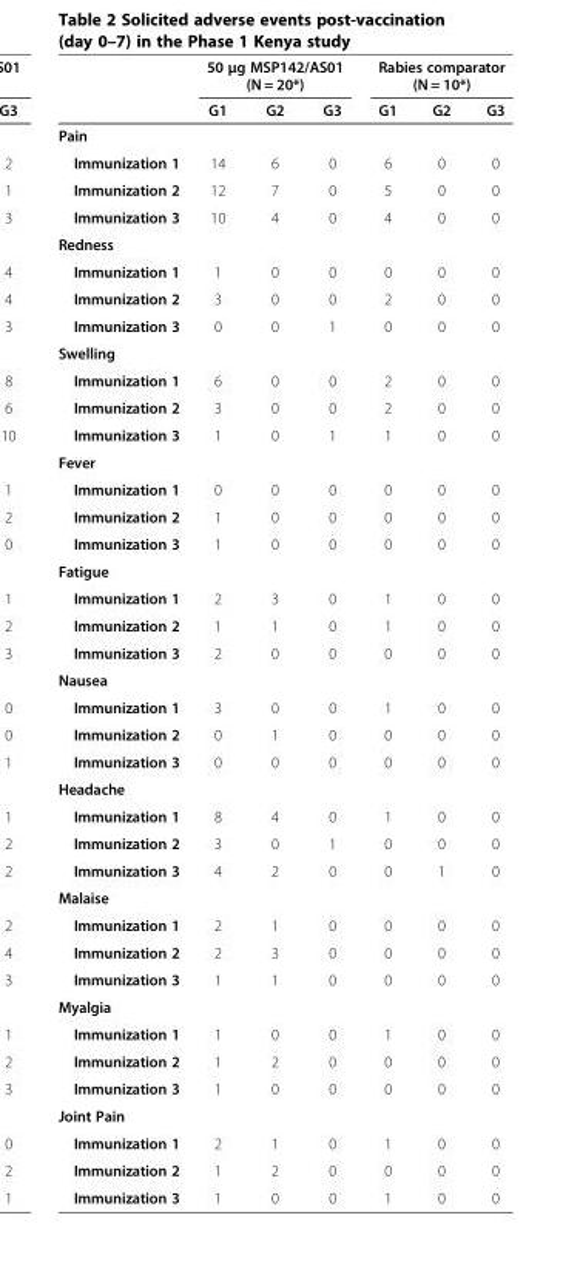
<table><thead><tr><td rowspan="2"></td><td colspan="3">50 μg MSP142/AS01 (N = 20*)</td><td colspan="3">Rabies comparator (N = 10*)</td></tr><tr><td>G1</td><td>G2</td><td>G3</td><td>G1</td><td>G2</td><td>G3</td></tr></thead><tbody><tr><td colspan="7">Pain</td></tr><tr><td>Immunization 1</td><td>14</td><td>6</td><td>0</td><td>6</td><td>0</td><td>0</td></tr><tr><td>Immunization 2</td><td>12</td><td>7</td><td>0</td><td>5</td><td>0</td><td>0</td></tr><tr><td>Immunization 3</td><td>10</td><td>4</td><td>0</td><td>4</td><td>0</td><td>0</td></tr><tr><td colspan="7">Redness</td></tr><tr><td>Immunization 1</td><td>1</td><td>0</td><td>0</td><td>0</td><td>0</td><td>0</td></tr><tr><td>Immunization 2</td><td>3</td><td>0</td><td>0</td><td>2</td><td>0</td><td>0</td></tr><tr><td>Immunization 3</td><td>0</td><td>0</td><td>1</td><td>0</td><td>0</td><td>0</td></tr><tr><td colspan="7">Swelling</td></tr><tr><td>Immunization 1</td><td>6</td><td>0</td><td>0</td><td>2</td><td>0</td><td>0</td></tr><tr><td>Immunization 2</td><td>3</td><td>0</td><td>0</td><td>2</td><td>0</td><td>0</td></tr><tr><td>Immunization 3</td><td>1</td><td>0</td><td>1</td><td>1</td><td>0</td><td>0</td></tr><tr><td colspan="7">Fever</td></tr><tr><td>Immunization 1</td><td>0</td><td>0</td><td>0</td><td>0</td><td>0</td><td>0</td></tr><tr><td>Immunization 2</td><td>1</td><td>0</td><td>0</td><td>0</td><td>0</td><td>0</td></tr><tr><td>Immunization 3</td><td>1</td><td>0</td><td>0</td><td>0</td><td>0</td><td>0</td></tr><tr><td colspan="7">Fatigue</td></tr><tr><td>Immunization 1</td><td>2</td><td>3</td><td>0</td><td>1</td><td>0</td><td>0</td></tr><tr><td>Immunization 2</td><td>1</td><td>1</td><td>0</td><td>1</td><td>0</td><td>0</td></tr><tr><td>Immunization 3</td><td>2</td><td>0</td><td>0</td><td>0</td><td>0</td><td>0</td></tr><tr><td colspan="7">Nausea</td></tr><tr><td>Immunization 1</td><td>3</td><td>0</td><td>0</td><td>1</td><td>0</td><td>0</td></tr><tr><td>Immunization 2</td><td>0</td><td>1</td><td>0</td><td>0</td><td>0</td><td>0</td></tr><tr><td>Immunization 3</td><td>0</td><td>0</td><td>0</td><td>0</td><td>0</td><td>0</td></tr><tr><td colspan="7">Headache</td></tr><tr><td>Immunization 1</td><td>8</td><td>4</td><td>0</td><td>1</td><td>0</td><td>0</td></tr><tr><td>Immunization 2</td><td>3</td><td>0</td><td>1</td><td>0</td><td>0</td><td>0</td></tr><tr><td>Immunization 3</td><td>4</td><td>2</td><td>0</td><td>0</td><td>1</td><td>0</td></tr><tr><td colspan="7">Malaise</td></tr><tr><td>Immunization 1</td><td>2</td><td>1</td><td>0</td><td>0</td><td>0</td><td>0</td></tr><tr><td>Immunization 2</td><td>2</td><td>3</td><td>0</td><td>0</td><td>0</td><td>0</td></tr><tr><td>Immunization 3</td><td>1</td><td>1</td><td>0</td><td>0</td><td>0</td><td>0</td></tr><tr><td colspan="7">Myalgia</td></tr><tr><td>Immunization 1</td><td>1</td><td>0</td><td>0</td><td>1</td><td>0</td><td>0</td></tr><tr><td>Immunization 2</td><td>1</td><td>2</td><td>0</td><td>0</td><td>0</td><td>0</td></tr><tr><td>Immunization 3</td><td>1</td><td>0</td><td>0</td><td>0</td><td>0</td><td>0</td></tr><tr><td colspan="7">Joint Pain</td></tr><tr><td>Immunization 1</td><td>2</td><td>1</td><td>0</td><td>1</td><td>0</td><td>0</td></tr><tr><td>Immunization 2</td><td>1</td><td>2</td><td>0</td><td>0</td><td>0</td><td>0</td></tr><tr><td>Immunization 3</td><td>1</td><td>0</td><td>0</td><td>1</td><td>0</td><td>0</td></tr></tbody></table>